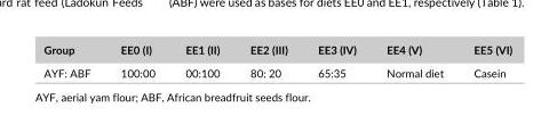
<table><thead><tr><td>Group</td><td>EE0 (I)</td><td>EE1 (II)</td><td>EE2 (III)</td><td>EE3 (IV)</td><td>EE4 (V)</td><td>EE5 (VI)</td></tr></thead><tbody><tr><td>AYF: ABF</td><td>100:00</td><td>00:100</td><td>80: 20</td><td>65:35</td><td>Normal diet</td><td>Casein</td></tr></tbody></table>